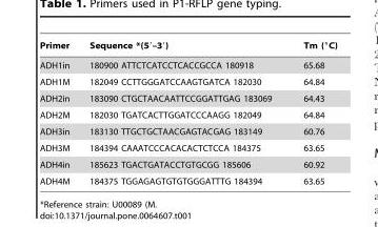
<table><thead><tr><td>Primer</td><td>Sequence *(5′–3′)</td><td>Tm (°C)</td></tr></thead><tbody><tr><td>ADH1in</td><td>180900 ATTCTCATCCTCACCGCCA 180918</td><td>65.68</td></tr><tr><td>ADH1M</td><td>182049 CCTTGGGATCCAAGTGATCA 182030</td><td>64.84</td></tr><tr><td>ADH2in</td><td>183090 CTGCTAACAATTCCGGATTGAG 183069</td><td>64.43</td></tr><tr><td>ADH2M</td><td>182030 TGATCACTTGGATCCCAAGG 182049</td><td>64.84</td></tr><tr><td>ADH3in</td><td>183130 TTGCTGCTAACGAGTACGAG 183149</td><td>60.76</td></tr><tr><td>ADH3M</td><td>184394 CAAATCCCACACACTCTCCA 184375</td><td>63.65</td></tr><tr><td>ADH4in</td><td>185623 TGACTGATACCTGTGCGG 185606</td><td>60.92</td></tr><tr><td>ADH4M</td><td>184375 TGGAGAGTGTGTGGGATTTG 184394</td><td>63.65</td></tr></tbody></table>